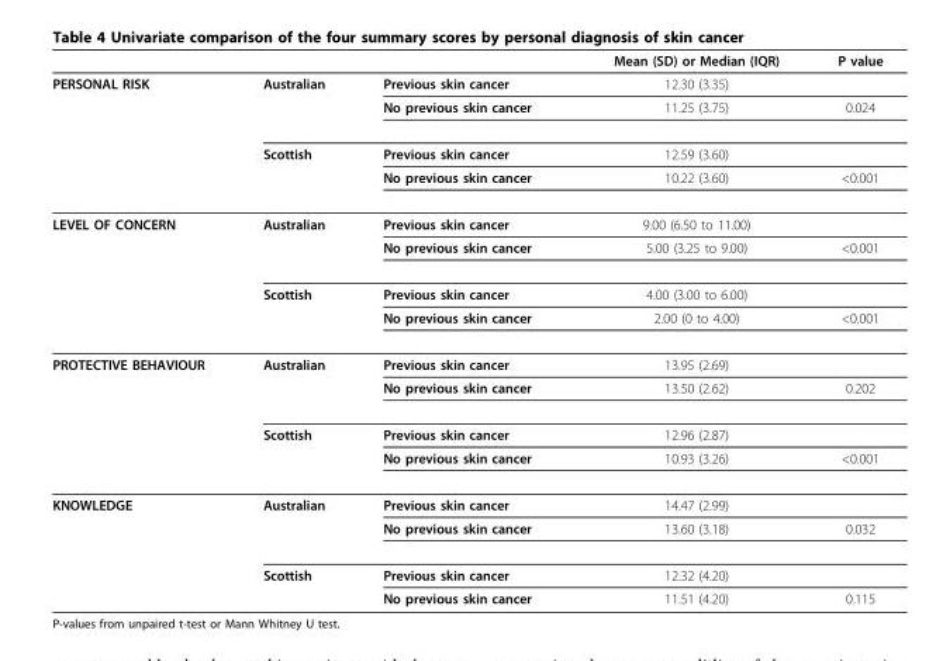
<table><thead><tr><td></td><td></td><td></td><td>Mean (SD) or Median (IQR)</td><td>P value</td></tr></thead><tbody><tr><td rowspan="4">PERSONAL RISK</td><td>Australian</td><td>Previous skin cancer</td><td>12.30 (3.35)</td><td></td></tr><tr><td></td><td>No previous skin cancer</td><td>11.25 (3.75)</td><td>0.024</td></tr><tr><td>Scottish</td><td>Previous skin cancer</td><td>12.59 (3.60)</td><td></td></tr><tr><td></td><td>No previous skin cancer</td><td>10.22 (3.60)</td><td>&lt;0.001</td></tr><tr><td rowspan="4">LEVEL OF CONCERN</td><td>Australian</td><td>Previous skin cancer</td><td>9.00 (6.50 to 11.00)</td><td></td></tr><tr><td></td><td>No previous skin cancer</td><td>5.00 (3.25 to 9.00)</td><td>&lt;0.001</td></tr><tr><td>Scottish</td><td>Previous skin cancer</td><td>4.00 (3.00 to 6.00)</td><td></td></tr><tr><td></td><td>No previous skin cancer</td><td>2.00 (0 to 4.00)</td><td>&lt;0.001</td></tr><tr><td rowspan="4">PROTECTIVE BEHAVIOUR</td><td>Australian</td><td>Previous skin cancer</td><td>13.95 (2.69)</td><td></td></tr><tr><td></td><td>No previous skin cancer</td><td>13.50 (2.62)</td><td>0.202</td></tr><tr><td>Scottish</td><td>Previous skin cancer</td><td>12.96 (2.87)</td><td></td></tr><tr><td></td><td>No previous skin cancer</td><td>10.93 (3.26)</td><td>&lt;0.001</td></tr><tr><td rowspan="4">KNOWLEDGE</td><td>Australian</td><td>Previous skin cancer</td><td>14.47 (2.99)</td><td></td></tr><tr><td></td><td>No previous skin cancer</td><td>13.60 (3.18)</td><td>0.032</td></tr><tr><td>Scottish</td><td>Previous skin cancer</td><td>12.32 (4.20)</td><td></td></tr><tr><td></td><td>No previous skin cancer</td><td>11.51 (4.20)</td><td>0.115</td></tr></tbody></table>